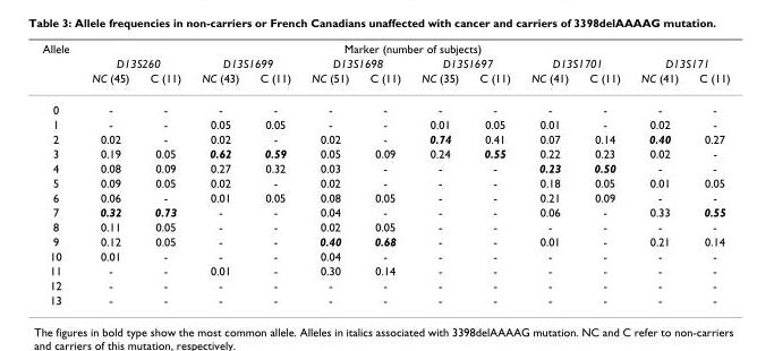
<table><thead><tr><td rowspan="3">Allele</td><td colspan="12">Marker (number of subjects)</td></tr><tr><td colspan="2">D13S260</td><td colspan="2">D13S1699</td><td colspan="2">D13S1698</td><td colspan="2">D13S1697</td><td colspan="2">D13S1701</td><td colspan="2">D13S171</td></tr><tr><td>NC (45)</td><td>C (11)</td><td>NC (43)</td><td>C (11)</td><td>NC (51)</td><td>C (11)</td><td>NC (35)</td><td>C (11)</td><td>NC (41)</td><td>C (11)</td><td>NC (41)</td><td>C (11)</td></tr></thead><tbody><tr><td>0</td><td>-</td><td>-</td><td>-</td><td>-</td><td>-</td><td>-</td><td>-</td><td>-</td><td>-</td><td>-</td><td>-</td><td>-</td></tr><tr><td>1</td><td>-</td><td>-</td><td>0.05</td><td>0.05</td><td>-</td><td>-</td><td>0.01</td><td>0.05</td><td>0.01</td><td>-</td><td>0.02</td><td>-</td></tr><tr><td>2</td><td>0.02</td><td>-</td><td>0.02</td><td>-</td><td>0.02</td><td>-</td><td>0.74</td><td>0.41</td><td>0.07</td><td>0.14</td><td>0.40</td><td>0.27</td></tr><tr><td>3</td><td>0.19</td><td>0.05</td><td>0.62</td><td>0.59</td><td>0.05</td><td>0.09</td><td>0.24</td><td>0.55</td><td>0.22</td><td>0.23</td><td>0.02</td><td>-</td></tr><tr><td>4</td><td>0.08</td><td>0.09</td><td>0.27</td><td>0.32</td><td>0.03</td><td>-</td><td>-</td><td>-</td><td>0.23</td><td>0.50</td><td>-</td><td>-</td></tr><tr><td>5</td><td>0.09</td><td>0.05</td><td>0.02</td><td>-</td><td>0.02</td><td>-</td><td>-</td><td>-</td><td>0.18</td><td>0.05</td><td>0.01</td><td>0.05</td></tr><tr><td>6</td><td>0.06</td><td>-</td><td>0.01</td><td>0.05</td><td>0.08</td><td>0.05</td><td>-</td><td>-</td><td>0.21</td><td>0.09</td><td>-</td><td>-</td></tr><tr><td>7</td><td>0.32</td><td>0.73</td><td>-</td><td>-</td><td>0.04</td><td>-</td><td>-</td><td>-</td><td>0.06</td><td>-</td><td>0.33</td><td>0.55</td></tr><tr><td>8</td><td>0.11</td><td>0.05</td><td>-</td><td>-</td><td>0.02</td><td>0.05</td><td>-</td><td>-</td><td>-</td><td>-</td><td>-</td><td>-</td></tr><tr><td>9</td><td>0.12</td><td>0.05</td><td>-</td><td>-</td><td>0.40</td><td>0.68</td><td>-</td><td>-</td><td>0.01</td><td>-</td><td>0.21</td><td>0.14</td></tr><tr><td>10</td><td>0.01</td><td>-</td><td>-</td><td>-</td><td>0.04</td><td>-</td><td>-</td><td>-</td><td>-</td><td>-</td><td>-</td><td>-</td></tr><tr><td>11</td><td>-</td><td>-</td><td>0.01</td><td>-</td><td>0.30</td><td>0.14</td><td>-</td><td>-</td><td>-</td><td>-</td><td>-</td><td>-</td></tr><tr><td>12</td><td>-</td><td>-</td><td>-</td><td>-</td><td>-</td><td>-</td><td>-</td><td>-</td><td>-</td><td>-</td><td>-</td><td>-</td></tr><tr><td>13</td><td>-</td><td>-</td><td>-</td><td>-</td><td>-</td><td>-</td><td>-</td><td>-</td><td>-</td><td>-</td><td>-</td><td>-</td></tr></tbody></table>